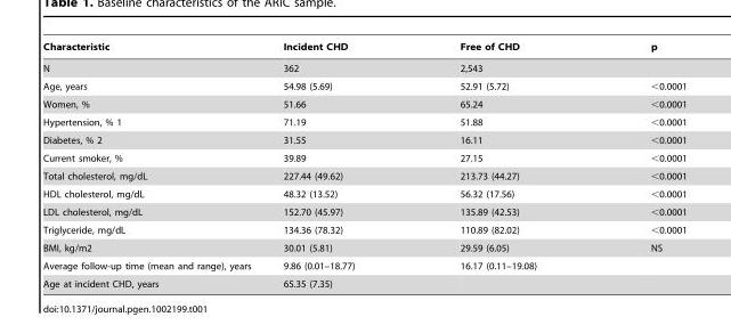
<table><thead><tr><td>Characteristic</td><td>Incident CHD</td><td>Free of CHD</td><td>p</td></tr></thead><tbody><tr><td>N</td><td>362</td><td>2,543</td><td></td></tr><tr><td>Age, years</td><td>54.98 (5.69)</td><td>52.91 (5.72)</td><td>&lt;0.0001</td></tr><tr><td>Women, %</td><td>51.66</td><td>65.24</td><td>&lt;0.0001</td></tr><tr><td>Hypertension, % 1</td><td>71.19</td><td>51.88</td><td>&lt;0.0001</td></tr><tr><td>Diabetes, % 2</td><td>31.55</td><td>16.11</td><td>&lt;0.0001</td></tr><tr><td>Current smoker, %</td><td>39.89</td><td>27.15</td><td>&lt;0.0001</td></tr><tr><td>Total cholesterol, mg/dL</td><td>227.44 (49.62)</td><td>213.73 (44.27)</td><td>&lt;0.0001</td></tr><tr><td>HDL cholesterol, mg/dL</td><td>48.32 (13.52)</td><td>56.32 (17.56)</td><td>&lt;0.0001</td></tr><tr><td>LDL cholesterol, mg/dL</td><td>152.70 (45.97)</td><td>135.89 (42.53)</td><td>&lt;0.0001</td></tr><tr><td>Triglyceride, mg/dL</td><td>134.36 (78.32)</td><td>110.89 (82.02)</td><td>&lt;0.0001</td></tr><tr><td>BMI, kg/m2</td><td>30.01 (5.81)</td><td>29.59 (6.05)</td><td>NS</td></tr><tr><td>Average follow-up time (mean and range), years</td><td>9.86 (0.01–18.77)</td><td>16.17 (0.11–19.08)</td><td></td></tr><tr><td>Age at incident CHD, years</td><td>65.35 (7.35)</td><td></td><td></td></tr></tbody></table>